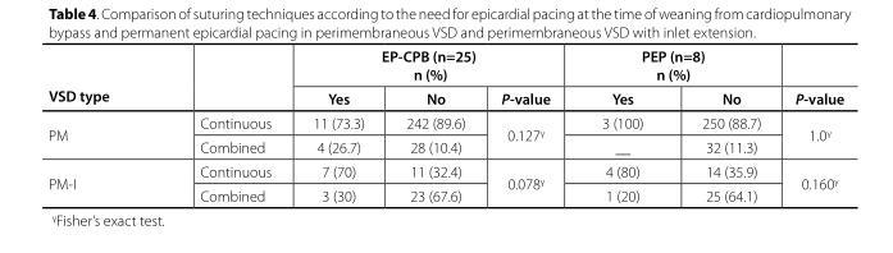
<table><thead><tr><td rowspan="2">VSD type</td><td rowspan="2"></td><td colspan="3">EP-CPB (n=25) n (%)</td><td colspan="2">PEP (n=8) n (%)</td><td rowspan="2">P-value</td></tr><tr><td>Yes</td><td>No</td><td>P-value</td><td>Yes</td><td>No</td></tr></thead><tbody><tr><td rowspan="2">PM</td><td>Continuous</td><td>11 (73.3)</td><td>242 (89.6)</td><td rowspan="2">0.127<sup>γ</sup></td><td>3 (100)</td><td>250 (88.7)</td><td rowspan="2">1.0<sup>γ</sup></td></tr><tr><td>Combined</td><td>4 (26.7)</td><td>28 (10.4)</td><td>__</td><td>32 (11.3)</td></tr><tr><td rowspan="2">PM-I</td><td>Continuous</td><td>7 (70)</td><td>11 (32.4)</td><td rowspan="2">0.078<sup>γ</sup></td><td>4 (80)</td><td>14 (35.9)</td><td rowspan="2">0.160<sup>γ</sup></td></tr><tr><td>Combined</td><td>3 (30)</td><td>23 (67.6)</td><td>1 (20)</td><td>25 (64.1)</td></tr></tbody></table>